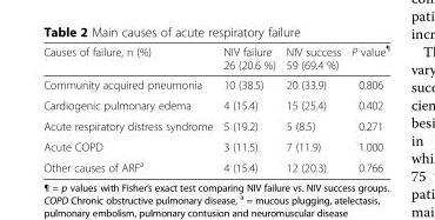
<table><thead><tr><td>Causes of failure, n (%)</td><td>NIV failure 26 (20.6 %)</td><td>NIV success 59 (69.4 %)</td><td>P value<sup>¶</sup></td></tr></thead><tbody><tr><td>Community acquired pneumonia</td><td>10 (38.5)</td><td>20 (33.9)</td><td>0.806</td></tr><tr><td>Cardiogenic pulmonary edema</td><td>4 (15.4)</td><td>15 (25.4)</td><td>0.402</td></tr><tr><td>Acute respiratory distress syndrome</td><td>5 (19.2)</td><td>5 (8.5)</td><td>0.271</td></tr><tr><td>Acute COPD</td><td>3 (11.5)</td><td>7 (11.9)</td><td>1.000</td></tr><tr><td>Other causes of ARF<sup>a</sup></td><td>4 (15.4)</td><td>12 (20.3)</td><td>0.766</td></tr></tbody></table>